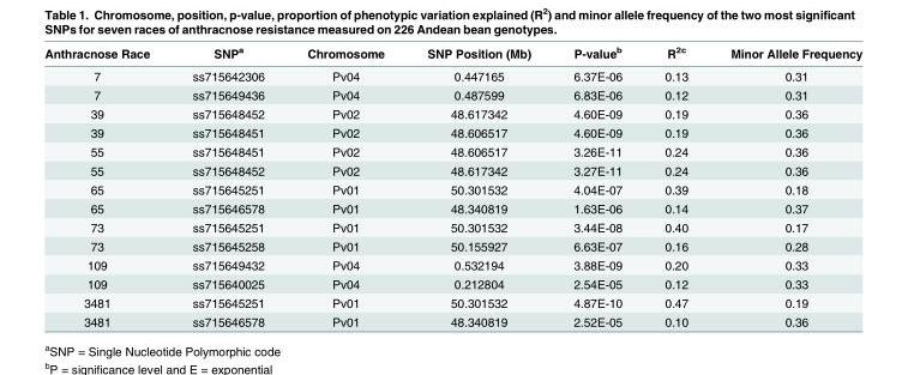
<table><thead><tr><td>Anthracnose Race</td><td>SNP<sup>a</sup></td><td>Chromosome</td><td>SNP Position (Mb)</td><td>P-value<sup>b</sup></td><td>R<sup>2c</sup></td><td>Minor Allele Frequency</td></tr></thead><tbody><tr><td>7</td><td>ss715642306</td><td>Pv04</td><td>0.447165</td><td>6.37E-06</td><td>0.13</td><td>0.31</td></tr><tr><td>7</td><td>ss715649436</td><td>Pv04</td><td>0.487599</td><td>6.83E-06</td><td>0.12</td><td>0.31</td></tr><tr><td>39</td><td>ss715648452</td><td>Pv02</td><td>48.617342</td><td>4.60E-09</td><td>0.19</td><td>0.36</td></tr><tr><td>39</td><td>ss715648451</td><td>Pv02</td><td>48.606517</td><td>4.60E-09</td><td>0.19</td><td>0.36</td></tr><tr><td>55</td><td>ss715648451</td><td>Pv02</td><td>48.606517</td><td>3.26E-11</td><td>0.24</td><td>0.36</td></tr><tr><td>55</td><td>ss715648452</td><td>Pv02</td><td>48.617342</td><td>3.27E-11</td><td>0.24</td><td>0.36</td></tr><tr><td>65</td><td>ss715645251</td><td>Pv01</td><td>50.301532</td><td>4.04E-07</td><td>0.39</td><td>0.18</td></tr><tr><td>65</td><td>ss715646578</td><td>Pv01</td><td>48.340819</td><td>1.63E-06</td><td>0.14</td><td>0.37</td></tr><tr><td>73</td><td>ss715645251</td><td>Pv01</td><td>50.301532</td><td>3.44E-08</td><td>0.40</td><td>0.17</td></tr><tr><td>73</td><td>ss715645258</td><td>Pv01</td><td>50.155927</td><td>6.63E-07</td><td>0.16</td><td>0.28</td></tr><tr><td>109</td><td>ss715649432</td><td>Pv04</td><td>0.532194</td><td>3.88E-09</td><td>0.20</td><td>0.33</td></tr><tr><td>109</td><td>ss715640025</td><td>Pv04</td><td>0.212804</td><td>2.54E-05</td><td>0.12</td><td>0.33</td></tr><tr><td>3481</td><td>ss715645251</td><td>Pv01</td><td>50.301532</td><td>4.87E-10</td><td>0.47</td><td>0.19</td></tr><tr><td>3481</td><td>ss715646578</td><td>Pv01</td><td>48.340819</td><td>2.52E-05</td><td>0.10</td><td>0.36</td></tr></tbody></table>